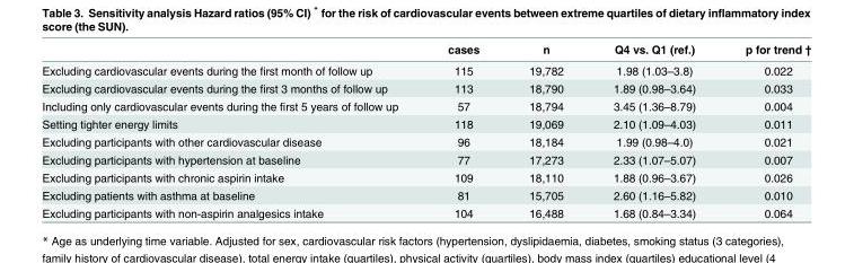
<table><thead><tr><td></td><td>cases</td><td>n</td><td>Q4 vs. Q1 (ref.)</td><td>p for trend †</td></tr></thead><tbody><tr><td>Excluding cardiovascular events during the first month of follow up</td><td>115</td><td>19,782</td><td>1.98 (1.03–3.8)</td><td>0.022</td></tr><tr><td>Excluding cardiovascular events during the first 3 months of follow up</td><td>113</td><td>18,790</td><td>1.89 (0.98–3.64)</td><td>0.033</td></tr><tr><td>Including only cardiovascular events during the first 5 years of follow up</td><td>57</td><td>18,794</td><td>3.45 (1.36–8.79)</td><td>0.004</td></tr><tr><td>Setting tighter energy limits</td><td>118</td><td>19,069</td><td>2.10 (1.09–4.03)</td><td>0.011</td></tr><tr><td>Excluding participants with other cardiovascular disease</td><td>96</td><td>18,184</td><td>1.99 (0.98–4.0)</td><td>0.021</td></tr><tr><td>Excluding participants with hypertension at baseline</td><td>77</td><td>17,273</td><td>2.33 (1.07–5.07)</td><td>0.007</td></tr><tr><td>Excluding participants with chronic aspirin intake</td><td>109</td><td>18,110</td><td>1.88 (0.96–3.67)</td><td>0.026</td></tr><tr><td>Excluding patients with asthma at baseline</td><td>81</td><td>15,705</td><td>2.60 (1.16–5.82)</td><td>0.010</td></tr><tr><td>Excluding participants with non-aspirin analgesics intake</td><td>104</td><td>16,488</td><td>1.68 (0.84–3.34)</td><td>0.064</td></tr></tbody></table>